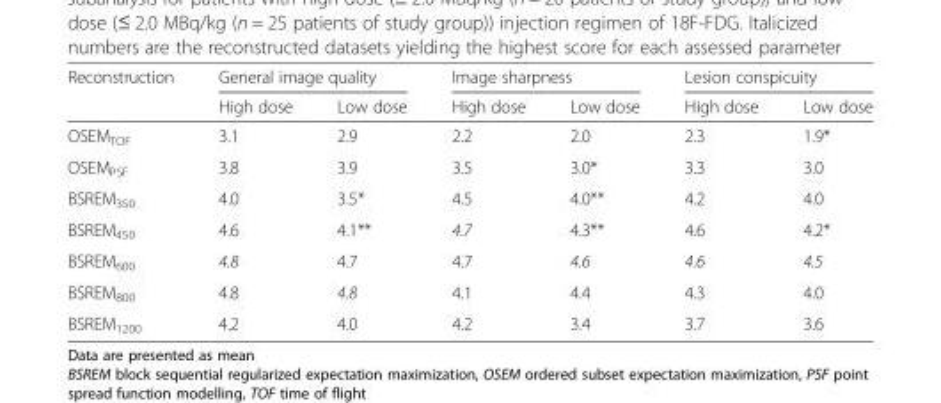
<table><thead><tr><td rowspan="2">Reconstruction</td><td colspan="2">General image quality</td><td colspan="2">Image sharpness</td><td colspan="2">Lesion conspicuity</td></tr><tr><td>High dose</td><td>Low dose</td><td>High dose</td><td>Low dose</td><td>High dose</td><td>Low dose</td></tr></thead><tbody><tr><td>OSEM<sub>TOF</sub></td><td>3.1</td><td>2.9</td><td>2.2</td><td>2.0</td><td>2.3</td><td>1.9*</td></tr><tr><td>OSEM<sub>PSF</sub></td><td>3.8</td><td>3.9</td><td>3.5</td><td>3.0*</td><td>3.3</td><td>3.0</td></tr><tr><td>BSREM<sub>350</sub></td><td>4.0</td><td>3.5*</td><td>4.5</td><td>4.0**</td><td>4.2</td><td>4.0</td></tr><tr><td>BSREM<sub>450</sub></td><td>4.6</td><td>4.1**</td><td>4.7</td><td>4.3**</td><td>4.6</td><td>4.2*</td></tr><tr><td>BSREM<sub>600</sub></td><td>4.8</td><td>4.7</td><td>4.7</td><td>4.6</td><td>4.6</td><td>4.5</td></tr><tr><td>BSREM<sub>800</sub></td><td>4.8</td><td>4.8</td><td>4.1</td><td>4.4</td><td>4.3</td><td>4.0</td></tr><tr><td>BSREM<sub>1200</sub></td><td>4.2</td><td>4.0</td><td>4.2</td><td>3.4</td><td>3.7</td><td>3.6</td></tr></tbody></table>